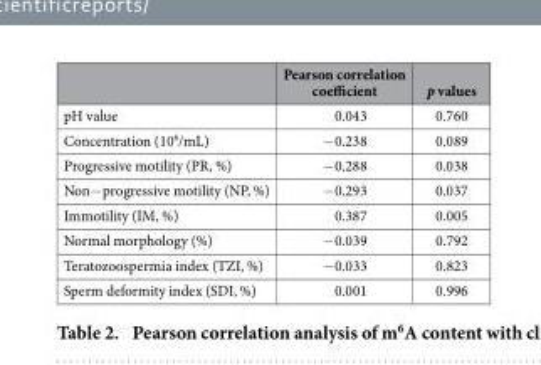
<table><thead><tr><td></td><td>Pearson correlation coefficient</td><td>p values</td></tr></thead><tbody><tr><td>pH value</td><td>0.043</td><td>0.760</td></tr><tr><td>Concentration (10<sup>6</sup>/mL)</td><td>− 0.238</td><td>0.089</td></tr><tr><td>Progressive motility (PR, %)</td><td>− 0.288</td><td>0.038</td></tr><tr><td>Non− progressive motility (NP, %)</td><td>− 0.293</td><td>0.037</td></tr><tr><td>Immotility (IM, %)</td><td>0.387</td><td>0.005</td></tr><tr><td>Normal morphology (%)</td><td>− 0.039</td><td>0.792</td></tr><tr><td>Teratozoospermia index (TZI, %)</td><td>− 0.033</td><td>0.823</td></tr><tr><td>Sperm deformity index (SDI, %)</td><td>0.001</td><td>0.996</td></tr></tbody></table>